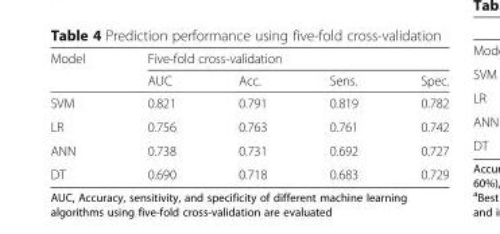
<table><thead><tr><td rowspan="2">Model</td><td colspan="4">Five-fold cross-validation</td></tr><tr><td>AUC</td><td>Acc.</td><td>Sens.</td><td>Spec.</td></tr></thead><tbody><tr><td>SVM</td><td>0.821</td><td>0.791</td><td>0.819</td><td>0.782</td></tr><tr><td>LR</td><td>0.756</td><td>0.763</td><td>0.761</td><td>0.742</td></tr><tr><td>ANN</td><td>0.738</td><td>0.731</td><td>0.692</td><td>0.727</td></tr><tr><td>DT</td><td>0.690</td><td>0.718</td><td>0.683</td><td>0.729</td></tr></tbody></table>